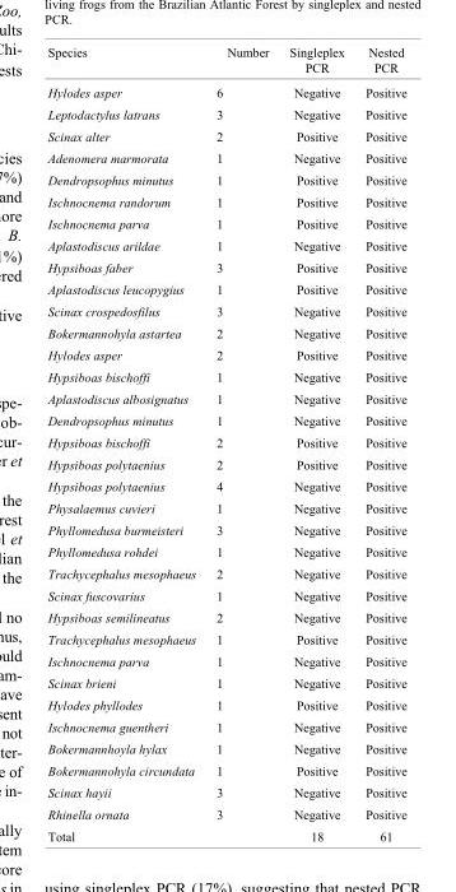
<table><thead><tr><td>Species</td><td>Number</td><td>Singleplex PCR</td><td>Nested PCR</td></tr></thead><tbody><tr><td>Hylodes asper</td><td>6</td><td>Negative</td><td>Positive</td></tr><tr><td>Leptodactylus latrans</td><td>3</td><td>Negative</td><td>Positive</td></tr><tr><td>Scinax alter</td><td>2</td><td>Positive</td><td>Positive</td></tr><tr><td>Adenomera marmorata</td><td>1</td><td>Negative</td><td>Positive</td></tr><tr><td>Dendropsophus minutus</td><td>1</td><td>Positive</td><td>Positive</td></tr><tr><td>Ischnocnema randorum</td><td>1</td><td>Positive</td><td>Positive</td></tr><tr><td>Ischnocnema parva</td><td>1</td><td>Positive</td><td>Positive</td></tr><tr><td>Aplastodiscus arildae</td><td>1</td><td>Negative</td><td>Positive</td></tr><tr><td>Hypsiboas faber</td><td>3</td><td>Positive</td><td>Positive</td></tr><tr><td>Aplastodiscus leucopygius</td><td>1</td><td>Positive</td><td>Positive</td></tr><tr><td>Scinax crospedosfilus</td><td>3</td><td>Negative</td><td>Positive</td></tr><tr><td>Bokermannohyla astartea</td><td>2</td><td>Negative</td><td>Positive</td></tr><tr><td>Hylodes asper</td><td>2</td><td>Positive</td><td>Positive</td></tr><tr><td>Hypsiboas bischoffi</td><td>1</td><td>Negative</td><td>Positive</td></tr><tr><td>Aplastodiscus albosignatus</td><td>1</td><td>Negative</td><td>Positive</td></tr><tr><td>Dendropsophus minutus</td><td>1</td><td>Negative</td><td>Positive</td></tr><tr><td>Hypsiboas bischoffi</td><td>2</td><td>Positive</td><td>Positive</td></tr><tr><td>Hypsiboas polytaenius</td><td>2</td><td>Positive</td><td>Positive</td></tr><tr><td>Hypsiboas polytaenius</td><td>4</td><td>Negative</td><td>Positive</td></tr><tr><td>Physalaemus cuvieri</td><td>1</td><td>Negative</td><td>Positive</td></tr><tr><td>Phyllomedusa burmeisteri</td><td>3</td><td>Negative</td><td>Positive</td></tr><tr><td>Phyllomedusa rohdei</td><td>1</td><td>Negative</td><td>Positive</td></tr><tr><td>Trachycephalus mesophaeus</td><td>2</td><td>Negative</td><td>Positive</td></tr><tr><td>Scinax fuscovarius</td><td>1</td><td>Negative</td><td>Positive</td></tr><tr><td>Hypsiboas semilineatus</td><td>2</td><td>Negative</td><td>Positive</td></tr><tr><td>Trachycephalus mesophaeus</td><td>1</td><td>Positive</td><td>Positive</td></tr><tr><td>Ischnocnema parva</td><td>1</td><td>Negative</td><td>Positive</td></tr><tr><td>Scinax brieni</td><td>1</td><td>Negative</td><td>Positive</td></tr><tr><td>Hylodes phyllodes</td><td>1</td><td>Positive</td><td>Positive</td></tr><tr><td>Ischnocnema guentheri</td><td>1</td><td>Negative</td><td>Positive</td></tr><tr><td>Bokermannhoyla hylax</td><td>1</td><td>Negative</td><td>Positive</td></tr><tr><td>Bokermannohyla circundata</td><td>1</td><td>Positive</td><td>Positive</td></tr><tr><td>Scinax hayii</td><td>3</td><td>Negative</td><td>Positive</td></tr><tr><td>Rhinella ornata</td><td>3</td><td>Negative</td><td>Positive</td></tr><tr><td>Total</td><td></td><td>18</td><td>61</td></tr></tbody></table>